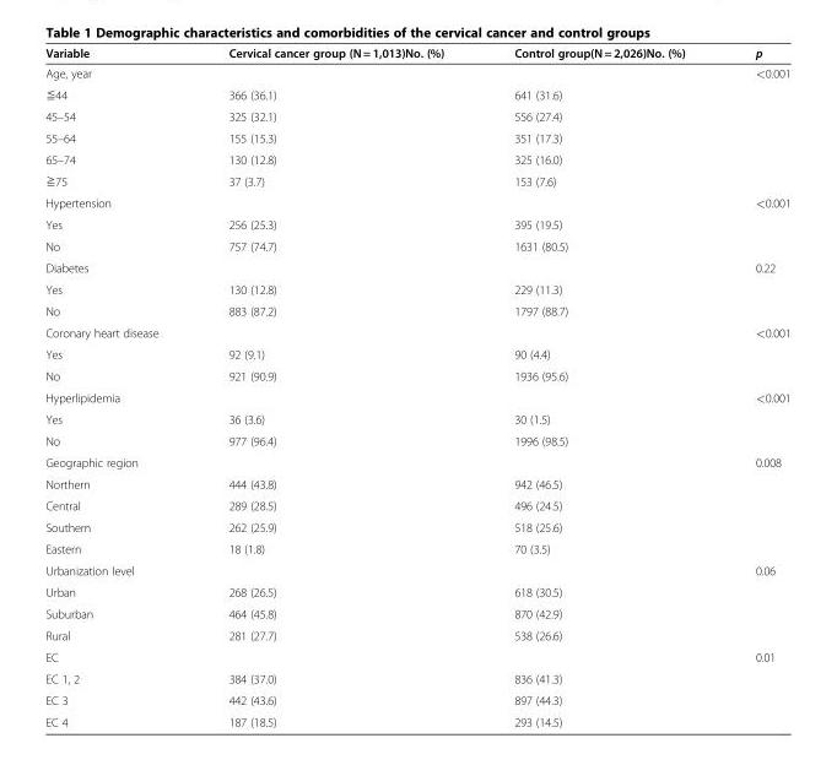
<table><thead><tr><td>Variable</td><td>Cervical cancer group (N = 1,013)No. (%)</td><td>Control group(N = 2,026)No. (%)</td><td>p</td></tr></thead><tbody><tr><td>Age, year</td><td></td><td></td><td>&lt;0.001</td></tr><tr><td>≦44</td><td>366 (36.1)</td><td>641 (31.6)</td><td></td></tr><tr><td>45–54</td><td>325 (32.1)</td><td>556 (27.4)</td><td></td></tr><tr><td>55–64</td><td>155 (15.3)</td><td>351 (17.3)</td><td></td></tr><tr><td>65–74</td><td>130 (12.8)</td><td>325 (16.0)</td><td></td></tr><tr><td>≧75</td><td>37 (3.7)</td><td>153 (7.6)</td><td></td></tr><tr><td>Hypertension</td><td></td><td></td><td>&lt;0.001</td></tr><tr><td>Yes</td><td>256 (25.3)</td><td>395 (19.5)</td><td></td></tr><tr><td>No</td><td>757 (74.7)</td><td>1631 (80.5)</td><td></td></tr><tr><td>Diabetes</td><td></td><td></td><td>0.22</td></tr><tr><td>Yes</td><td>130 (12.8)</td><td>229 (11.3)</td><td></td></tr><tr><td>No</td><td>883 (87.2)</td><td>1797 (88.7)</td><td></td></tr><tr><td>Coronary heart disease</td><td></td><td></td><td>&lt;0.001</td></tr><tr><td>Yes</td><td>92 (9.1)</td><td>90 (4.4)</td><td></td></tr><tr><td>No</td><td>921 (90.9)</td><td>1936 (95.6)</td><td></td></tr><tr><td>Hyperlipidemia</td><td></td><td></td><td>&lt;0.001</td></tr><tr><td>Yes</td><td>36 (3.6)</td><td>30 (1.5)</td><td></td></tr><tr><td>No</td><td>977 (96.4)</td><td>1996 (98.5)</td><td></td></tr><tr><td>Geographic region</td><td></td><td></td><td>0.008</td></tr><tr><td>Northern</td><td>444 (43.8)</td><td>942 (46.5)</td><td></td></tr><tr><td>Central</td><td>289 (28.5)</td><td>496 (24.5)</td><td></td></tr><tr><td>Southern</td><td>262 (25.9)</td><td>518 (25.6)</td><td></td></tr><tr><td>Eastern</td><td>18 (1.8)</td><td>70 (3.5)</td><td></td></tr><tr><td>Urbanization level</td><td></td><td></td><td>0.06</td></tr><tr><td>Urban</td><td>268 (26.5)</td><td>618 (30.5)</td><td></td></tr><tr><td>Suburban</td><td>464 (45.8)</td><td>870 (42.9)</td><td></td></tr><tr><td>Rural</td><td>281 (27.7)</td><td>538 (26.6)</td><td></td></tr><tr><td>EC</td><td></td><td></td><td>0.01</td></tr><tr><td>EC 1, 2</td><td>384 (37.0)</td><td>836 (41.3)</td><td></td></tr><tr><td>EC 3</td><td>442 (43.6)</td><td>897 (44.3)</td><td></td></tr><tr><td>EC 4</td><td>187 (18.5)</td><td>293 (14.5)</td><td></td></tr></tbody></table>